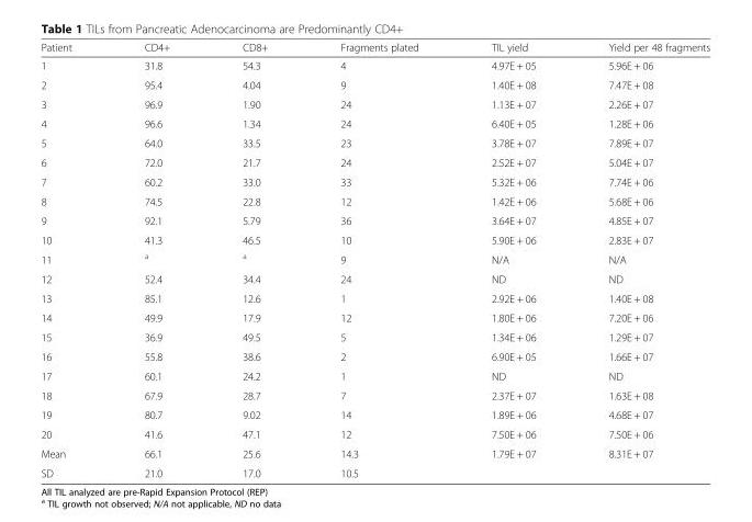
<table><thead><tr><td>Patient</td><td>CD4+</td><td>CD8+</td><td>Fragments plated</td><td>TIL yield</td><td>Yield per 48 fragments</td></tr></thead><tbody><tr><td>1</td><td>31.8</td><td>54.3</td><td>4</td><td>4.97E + 05</td><td>5.96E + 06</td></tr><tr><td>2</td><td>95.4</td><td>4.04</td><td>9</td><td>1.40E + 08</td><td>7.47E + 08</td></tr><tr><td>3</td><td>96.9</td><td>1.90</td><td>24</td><td>1.13E + 07</td><td>2.26E + 07</td></tr><tr><td>4</td><td>96.6</td><td>1.34</td><td>24</td><td>6.40E + 05</td><td>1.28E + 06</td></tr><tr><td>5</td><td>64.0</td><td>33.5</td><td>23</td><td>3.78E + 07</td><td>7.89E + 07</td></tr><tr><td>6</td><td>72.0</td><td>21.7</td><td>24</td><td>2.52E + 07</td><td>5.04E + 07</td></tr><tr><td>7</td><td>60.2</td><td>33.0</td><td>33</td><td>5.32E + 06</td><td>7.74E + 06</td></tr><tr><td>8</td><td>74.5</td><td>22.8</td><td>12</td><td>1.42E + 06</td><td>5.68E + 06</td></tr><tr><td>9</td><td>92.1</td><td>5.79</td><td>36</td><td>3.64E + 07</td><td>4.85E + 07</td></tr><tr><td>10</td><td>41.3</td><td>46.5</td><td>10</td><td>5.90E + 06</td><td>2.83E + 07</td></tr><tr><td>11</td><td><sup>a</sup></td><td><sup>a</sup></td><td>9</td><td>N/A</td><td>N/A</td></tr><tr><td>12</td><td>52.4</td><td>34.4</td><td>24</td><td>ND</td><td>ND</td></tr><tr><td>13</td><td>85.1</td><td>12.6</td><td>1</td><td>2.92E + 06</td><td>1.40E + 08</td></tr><tr><td>14</td><td>49.9</td><td>17.9</td><td>12</td><td>1.80E + 06</td><td>7.20E + 06</td></tr><tr><td>15</td><td>36.9</td><td>49.5</td><td>5</td><td>1.34E + 06</td><td>1.29E + 07</td></tr><tr><td>16</td><td>55.8</td><td>38.6</td><td>2</td><td>6.90E + 05</td><td>1.66E + 07</td></tr><tr><td>17</td><td>60.1</td><td>24.2</td><td>1</td><td>ND</td><td>ND</td></tr><tr><td>18</td><td>67.9</td><td>28.7</td><td>7</td><td>2.37E + 07</td><td>1.63E + 08</td></tr><tr><td>19</td><td>80.7</td><td>9.02</td><td>14</td><td>1.89E + 06</td><td>4.68E + 07</td></tr><tr><td>20</td><td>41.6</td><td>47.1</td><td>12</td><td>7.50E + 06</td><td>7.50E + 06</td></tr><tr><td>Mean</td><td>66.1</td><td>25.6</td><td>14.3</td><td>1.79E + 07</td><td>8.31E + 07</td></tr><tr><td>SD</td><td>21.0</td><td>17.0</td><td>10.5</td><td></td><td></td></tr></tbody></table>